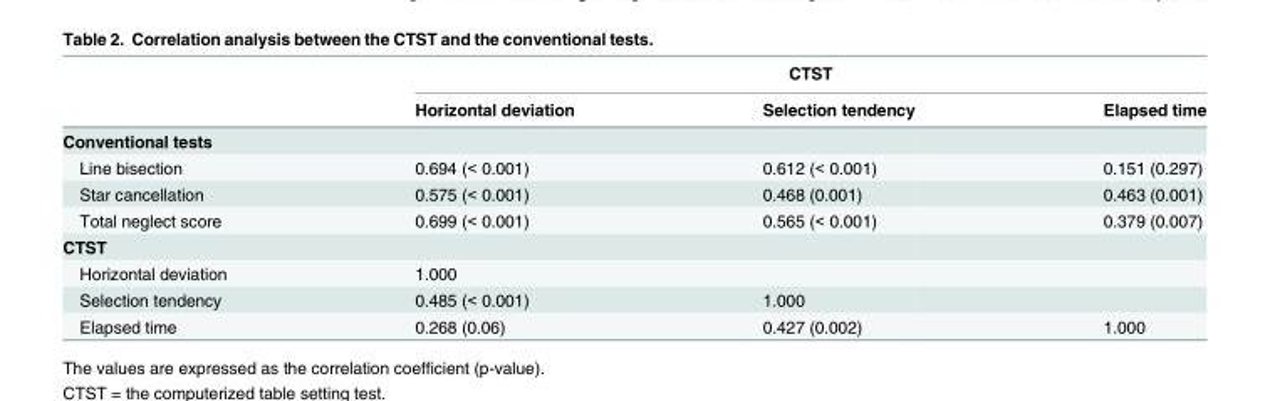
<table><thead><tr><td rowspan="2"></td><td colspan="3">CTST</td></tr><tr><td>Horizontal deviation</td><td>Selection tendency</td><td>Elapsed time</td></tr></thead><tbody><tr><td colspan="4">Conventional tests</td></tr><tr><td>Line bisection</td><td>0.694 (&lt; 0.001)</td><td>0.612 (&lt; 0.001)</td><td>0.151 (0.297)</td></tr><tr><td>Star cancellation</td><td>0.575 (&lt; 0.001)</td><td>0.468 (0.001)</td><td>0.463 (0.001)</td></tr><tr><td>Total neglect score</td><td>0.699 (&lt; 0.001)</td><td>0.565 (&lt; 0.001)</td><td>0.379 (0.007)</td></tr><tr><td colspan="4">CTST</td></tr><tr><td>Horizontal deviation</td><td>1.000</td><td></td><td></td></tr><tr><td>Selection tendency</td><td>0.485 (&lt; 0.001)</td><td>1.000</td><td></td></tr><tr><td>Elapsed time</td><td>0.268 (0.06)</td><td>0.427 (0.002)</td><td>1.000</td></tr></tbody></table>